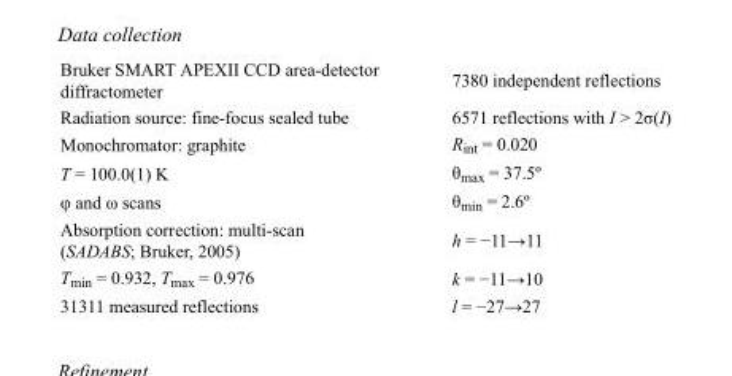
<table><tbody><tr><td>Bruker SMART APEXII CCD area-detector diffractometer</td><td>7380 independent reflections</td></tr><tr><td>Radiation source: fine-focus sealed tube</td><td>6571 reflections with I &gt; 2σ(I)</td></tr><tr><td>Monochromator: graphite</td><td>R<sub>int</sub> = 0.020</td></tr><tr><td>T = 100.0(1) K</td><td>θ<sub>max</sub> = 37.5º</td></tr><tr><td>φ and ω scans</td><td>θ<sub>min</sub> = 2.6º</td></tr><tr><td>Absorption correction: multi-scan (SADABS; Bruker, 2005)</td><td>h = −11→11</td></tr><tr><td>T<sub>min</sub> = 0.932, T<sub>max</sub> = 0.976</td><td>k = −11→10</td></tr><tr><td>31311 measured reflections</td><td>l = −27→27</td></tr></tbody></table>